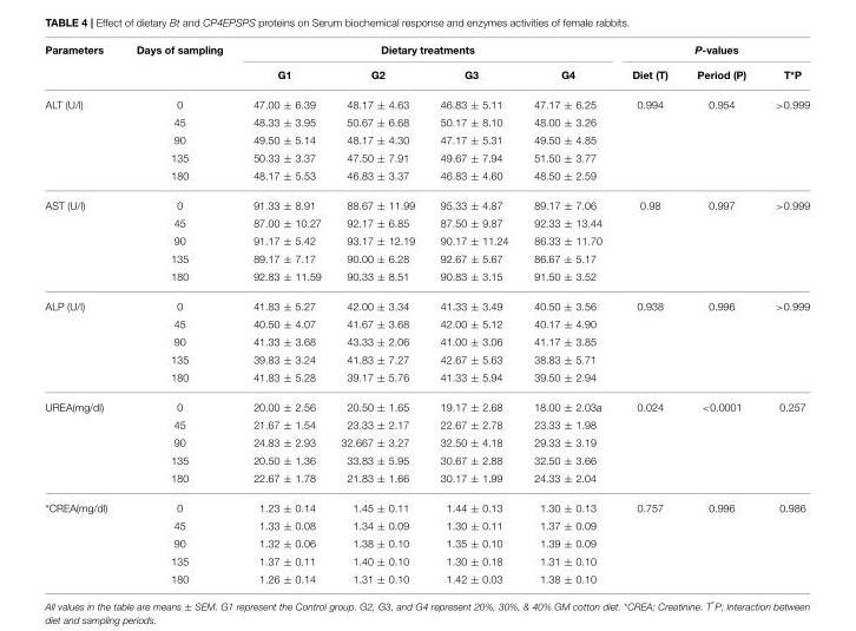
<table><thead><tr><td rowspan="2">Parameters</td><td rowspan="2">Days of sampling</td><td colspan="4">Dietary treatments</td><td colspan="3">P-values</td></tr><tr><td>G1</td><td>G2</td><td>G3</td><td>G4</td><td>Diet (T)</td><td>Period (P)</td><td>T*P</td></tr></thead><tbody><tr><td rowspan="5">ALT (U/l)</td><td>0</td><td>47.00 ± 6.39</td><td>48.17 ± 4.63</td><td>46.83 ± 5.11</td><td>47.17 ± 6.25</td><td>0.994</td><td>0.954</td><td>&gt;0.999</td></tr><tr><td>45</td><td>48.33 ± 3.95</td><td>50.67 ± 6.68</td><td>50.17 ± 8.10</td><td>48.00 ± 3.26</td><td></td><td></td><td></td></tr><tr><td>90</td><td>49.50 ± 5.14</td><td>48.17 ± 4.30</td><td>47.17 ± 5.31</td><td>49.50 ± 4.85</td><td></td><td></td><td></td></tr><tr><td>135</td><td>50.33 ± 3.37</td><td>47.50 ± 7.91</td><td>49.67 ± 7.94</td><td>51.50 ± 3.77</td><td></td><td></td><td></td></tr><tr><td>180</td><td>48.17 ± 5.53</td><td>46.83 ± 3.37</td><td>46.83 ± 4.60</td><td>48.50 ± 2.59</td><td></td><td></td><td></td></tr><tr><td rowspan="5">AST (U/l)</td><td>0</td><td>91.33 ± 8.91</td><td>88.67 ± 11.99</td><td>95.33 ± 4.87</td><td>89.17 ± 7.06</td><td>0.98</td><td>0.997</td><td>&gt;0.999</td></tr><tr><td>45</td><td>87.00 ± 10.27</td><td>92.17 ± 6.85</td><td>87.50 ± 9.87</td><td>92.33 ± 13.44</td><td></td><td></td><td></td></tr><tr><td>90</td><td>91.17 ± 5.42</td><td>93.17 ± 12.19</td><td>90.17 ± 11.24</td><td>86.33 ± 11.70</td><td></td><td></td><td></td></tr><tr><td>135</td><td>89.17 ± 7.17</td><td>90.00 ± 6.28</td><td>92.67 ± 5.67</td><td>86.67 ± 5.17</td><td></td><td></td><td></td></tr><tr><td>180</td><td>92.83 ± 11.59</td><td>90.33 ± 8.51</td><td>90.83 ± 3.15</td><td>91.50 ± 3.52</td><td></td><td></td><td></td></tr><tr><td rowspan="5">ALP (U/l)</td><td>0</td><td>41.83 ± 5.27</td><td>42.00 ± 3.34</td><td>41.33 ± 3.49</td><td>40.50 ± 3.56</td><td>0.938</td><td>0.996</td><td>&gt;0.999</td></tr><tr><td>45</td><td>40.50 ± 4.07</td><td>41.67 ± 3.68</td><td>42.00 ± 5.12</td><td>40.17 ± 4.90</td><td></td><td></td><td></td></tr><tr><td>90</td><td>41.33 ± 3.68</td><td>43.33 ± 2.06</td><td>41.00 ± 3.06</td><td>41.17 ± 3.85</td><td></td><td></td><td></td></tr><tr><td>135</td><td>39.83 ± 3.24</td><td>41.83 ± 7.27</td><td>42.67 ± 5.63</td><td>38.83 ± 5.71</td><td></td><td></td><td></td></tr><tr><td>180</td><td>41.83 ± 5.28</td><td>39.17 ± 5.76</td><td>41.33 ± 5.94</td><td>39.50 ± 2.94</td><td></td><td></td><td></td></tr><tr><td rowspan="5">UREA(mg/dl)</td><td>0</td><td>20.00 ± 2.56</td><td>20.50 ± 1.65</td><td>19.17 ± 2.68</td><td>18.00 ± 2.03a</td><td>0.024</td><td>&lt;0.0001</td><td>0.257</td></tr><tr><td>45</td><td>21.67 ± 1.54</td><td>23.33 ± 2.17</td><td>22.67 ± 2.78</td><td>23.33 ± 1.98</td><td></td><td></td><td></td></tr><tr><td>90</td><td>24.83 ± 2.93</td><td>32.667 ± 3.27</td><td>32.50 ± 4.18</td><td>29.33 ± 3.19</td><td></td><td></td><td></td></tr><tr><td>135</td><td>20.50 ± 1.36</td><td>33.83 ± 5.95</td><td>30.67 ± 2.88</td><td>32.50 ± 3.66</td><td></td><td></td><td></td></tr><tr><td>180</td><td>22.67 ± 1.78</td><td>21.83 ± 1.66</td><td>30.17 ± 1.99</td><td>24.33 ± 2.04</td><td></td><td></td><td></td></tr><tr><td rowspan="5">*CREA(mg/dl)</td><td>0</td><td>1.23 ± 0.14</td><td>1.45 ± 0.11</td><td>1.44 ± 0.13</td><td>1.30 ± 0.13</td><td>0.757</td><td>0.996</td><td>0.986</td></tr><tr><td>45</td><td>1.33 ± 0.08</td><td>1.34 ± 0.09</td><td>1.30 ± 0.11</td><td>1.37 ± 0.09</td><td></td><td></td><td></td></tr><tr><td>90</td><td>1.32 ± 0.06</td><td>1.38 ± 0.10</td><td>1.35 ± 0.10</td><td>1.39 ± 0.09</td><td></td><td></td><td></td></tr><tr><td>135</td><td>1.37 ± 0.11</td><td>1.40 ± 0.10</td><td>1.30 ± 0.18</td><td>1.31 ± 0.10</td><td></td><td></td><td></td></tr><tr><td>180</td><td>1.26 ± 0.14</td><td>1.31 ± 0.10</td><td>1.42 ± 0.03</td><td>1.38 ± 0.10</td><td></td><td></td><td></td></tr></tbody></table>